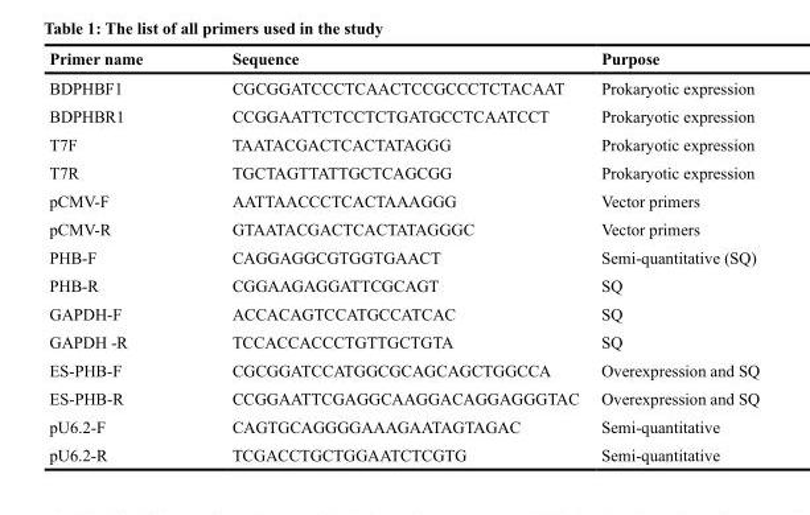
<table><thead><tr><td>Primer name</td><td>Sequence</td><td>Purpose</td></tr></thead><tbody><tr><td>BDPHBF1</td><td>CGCGGATCCCTCAACTCCGCCCTCTACAAT</td><td>Prokaryotic expression</td></tr><tr><td>BDPHBR1</td><td>CCGGAATTCTCCTCTGATGCCTCAATCCT</td><td>Prokaryotic expression</td></tr><tr><td>T7F</td><td>TAATACGACTCACTATAGGG</td><td>Prokaryotic expression</td></tr><tr><td>T7R</td><td>TGCTAGTTATTGCTCAGCGG</td><td>Prokaryotic expression</td></tr><tr><td>pCMV-F</td><td>AATTAACCCTCACTAAAGGG</td><td>Vector primers</td></tr><tr><td>pCMV-R</td><td>GTAATACGACTCACTATAGGGC</td><td>Vector primers</td></tr><tr><td>PHB-F</td><td>CAGGAGGCGTGGTGAACT</td><td>Semi-quantitative (SQ)</td></tr><tr><td>PHB-R</td><td>CGGAAGAGGATTCGCAGT</td><td>SQ</td></tr><tr><td>GAPDH-F</td><td>ACCACAGTCCATGCCATCAC</td><td>SQ</td></tr><tr><td>GAPDH -R</td><td>TCCACCACCCTGTTGCTGTA</td><td>SQ</td></tr><tr><td>ES-PHB-F</td><td>CGCGGATCCATGGCGCAGCAGCTGGCCA</td><td>Overexpression and SQ</td></tr><tr><td>ES-PHB-R</td><td>CCGGAATTCGAGGCAAGGACAGGAGGGTAC</td><td>Overexpression and SQ</td></tr><tr><td>pU6.2-F</td><td>CAGTGCAGGGGAAAGAATAGTAGAC</td><td>Semi-quantitative</td></tr><tr><td>pU6.2-R</td><td>TCGACCTGCTGGAATCTCGTG</td><td>Semi-quantitative</td></tr></tbody></table>